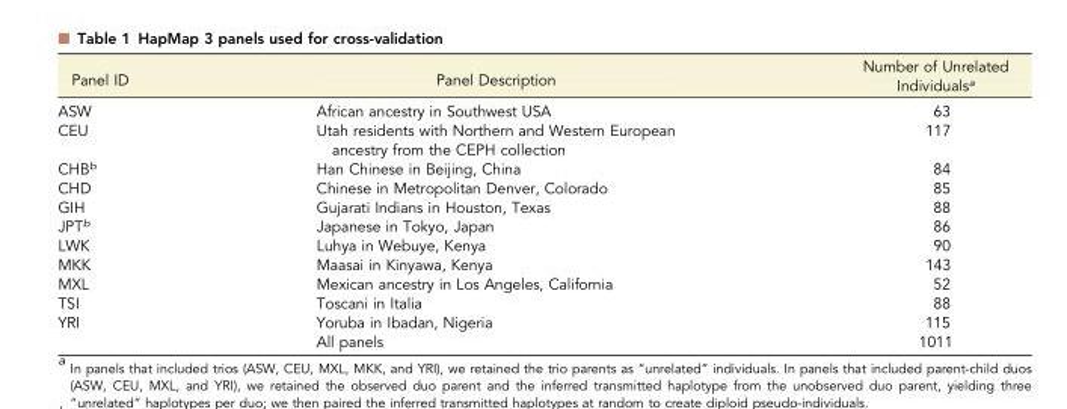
<table><thead><tr><td>Panel ID</td><td>Panel Description</td><td>Number of Unrelated Individuals<sup>a</sup></td></tr></thead><tbody><tr><td>ASW</td><td>African ancestry in Southwest USA</td><td>63</td></tr><tr><td>CEU</td><td>Utah residents with Northern and Western European ancestry from the CEPH collection</td><td>117</td></tr><tr><td>CHB<sup>b</sup></td><td>Han Chinese in Beijing, China</td><td>84</td></tr><tr><td>CHD</td><td>Chinese in Metropolitan Denver, Colorado</td><td>85</td></tr><tr><td>GIH</td><td>Gujarati Indians in Houston, Texas</td><td>88</td></tr><tr><td>JPT<sup>b</sup></td><td>Japanese in Tokyo, Japan</td><td>86</td></tr><tr><td>LWK</td><td>Luhya in Webuye, Kenya</td><td>90</td></tr><tr><td>MKK</td><td>Maasai in Kinyawa, Kenya</td><td>143</td></tr><tr><td>MXL</td><td>Mexican ancestry in Los Angeles, California</td><td>52</td></tr><tr><td>TSI</td><td>Toscani in Italia</td><td>88</td></tr><tr><td rowspan="2">YRI</td><td>Yoruba in Ibadan, Nigeria</td><td>115</td></tr><tr><td>All panels</td><td>1011</td></tr></tbody></table>